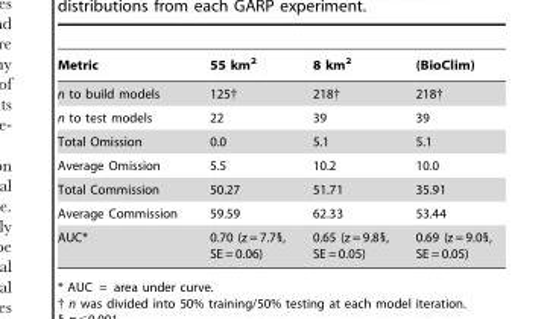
<table><thead><tr><td>Metric</td><td>55 km<sup>2</sup></td><td>8 km<sup>2</sup></td><td>(BioClim)</td></tr></thead><tbody><tr><td>n to build models</td><td>125†</td><td>218†</td><td>218†</td></tr><tr><td>n to test models</td><td>22</td><td>39</td><td>39</td></tr><tr><td>Total Omission</td><td>0.0</td><td>5.1</td><td>5.1</td></tr><tr><td>Average Omission</td><td>5.5</td><td>10.2</td><td>10.0</td></tr><tr><td>Total Commission</td><td>50.27</td><td>51.71</td><td>35.91</td></tr><tr><td>Average Commission</td><td>59.59</td><td>62.33</td><td>53.44</td></tr><tr><td>AUC*</td><td>0.70 (z = 7.7§, SE = 0.06)</td><td>0.65 (z = 9.8§, SE = 0.05)</td><td>0.69 (z = 9.0§, SE = 0.05)</td></tr></tbody></table>